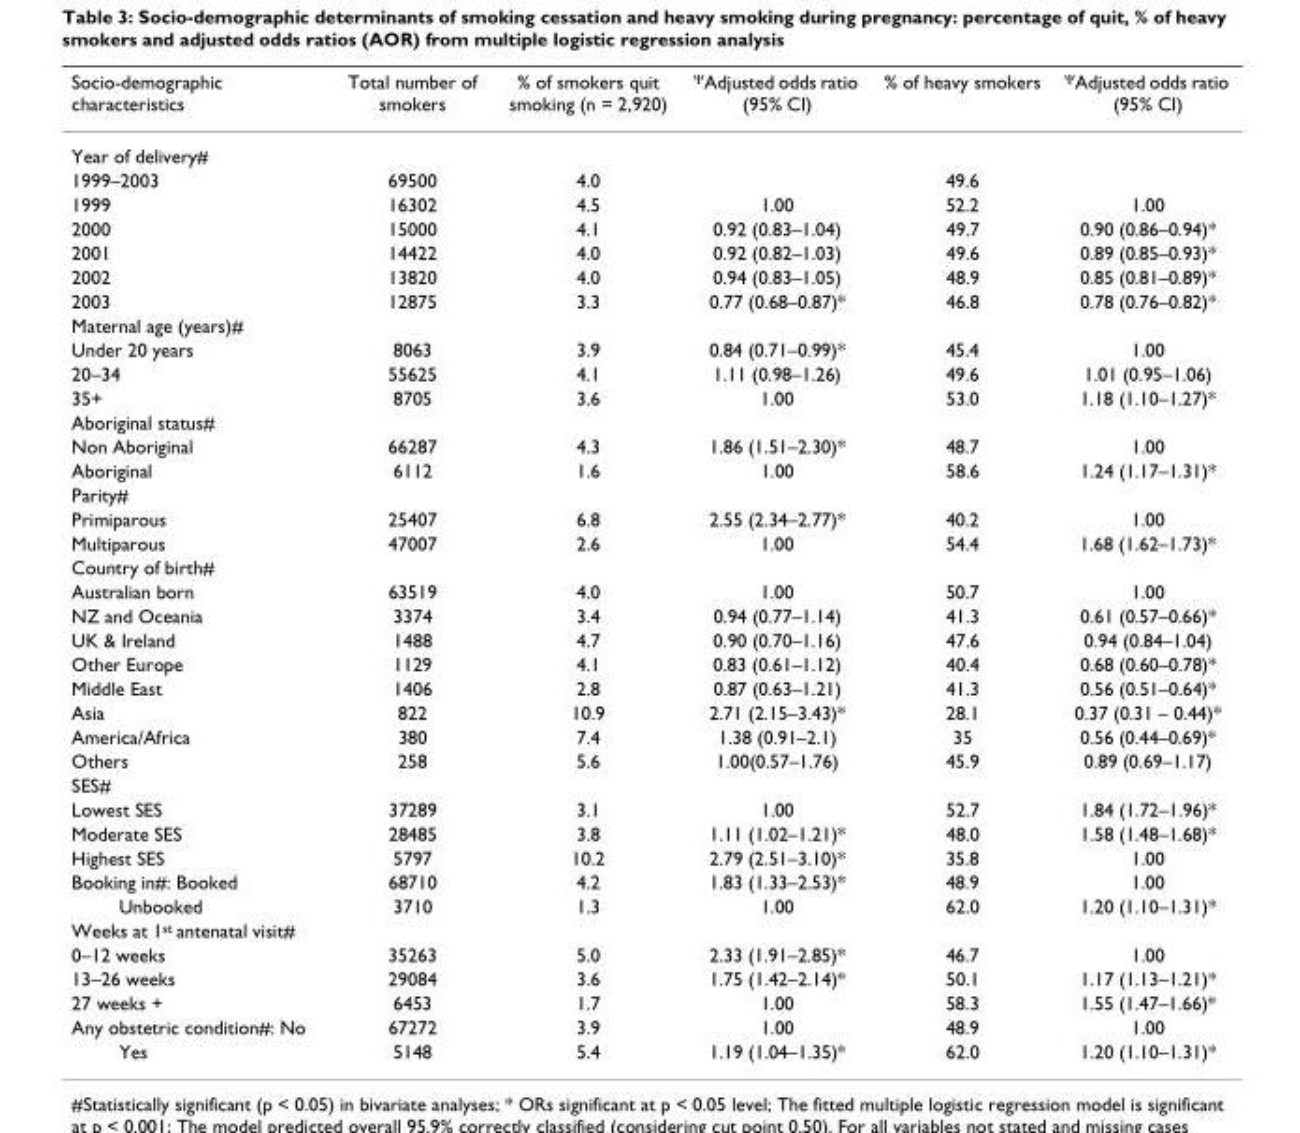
<table><thead><tr><td>Socio-demographic characteristics</td><td>Total number of smokers</td><td>% of smokers quit smoking (n = 2,920)</td><td><sup>Ψ</sup>Adjusted odds ratio (95% CI)</td><td>% of heavy smokers</td><td><sup>Ψ</sup>Adjusted odds ratio (95% CI)</td></tr></thead><tbody><tr><td colspan="6">Year of delivery#</td></tr><tr><td>1999–2003</td><td>69500</td><td>4.0</td><td></td><td>49.6</td><td></td></tr><tr><td>1999</td><td>16302</td><td>4.5</td><td>1.00</td><td>52.2</td><td>1.00</td></tr><tr><td>2000</td><td>15000</td><td>4.1</td><td>0.92 (0.83–1.04)</td><td>49.7</td><td>0.90 (0.86–0.94)*</td></tr><tr><td>2001</td><td>14422</td><td>4.0</td><td>0.92 (0.82–1.03)</td><td>49.6</td><td>0.89 (0.85–0.93)*</td></tr><tr><td>2002</td><td>13820</td><td>4.0</td><td>0.94 (0.83–1.05)</td><td>48.9</td><td>0.85 (0.81–0.89)*</td></tr><tr><td>2003</td><td>12875</td><td>3.3</td><td>0.77 (0.68–0.87)*</td><td>46.8</td><td>0.78 (0.76–0.82)*</td></tr><tr><td colspan="6">Maternal age (years)#</td></tr><tr><td>Under 20 years</td><td>8063</td><td>3.9</td><td>0.84 (0.71–0.99)*</td><td>45.4</td><td>1.00</td></tr><tr><td>20–34</td><td>55625</td><td>4.1</td><td>1.11 (0.98–1.26)</td><td>49.6</td><td>1.01 (0.95–1.06)</td></tr><tr><td>35+</td><td>8705</td><td>3.6</td><td>1.00</td><td>53.0</td><td>1.18 (1.10–1.27)*</td></tr><tr><td colspan="6">Aboriginal status#</td></tr><tr><td>Non Aboriginal</td><td>66287</td><td>4.3</td><td>1.86 (1.51–2.30)*</td><td>48.7</td><td>1.00</td></tr><tr><td>Aboriginal</td><td>6112</td><td>1.6</td><td>1.00</td><td>58.6</td><td>1.24 (1.17–1.31)*</td></tr><tr><td colspan="6">Parity#</td></tr><tr><td>Primiparous</td><td>25407</td><td>6.8</td><td>2.55 (2.34–2.77)*</td><td>40.2</td><td>1.00</td></tr><tr><td>Multiparous</td><td>47007</td><td>2.6</td><td>1.00</td><td>54.4</td><td>1.68 (1.62–1.73)*</td></tr><tr><td colspan="6">Country of birth#</td></tr><tr><td>Australian born</td><td>63519</td><td>4.0</td><td>1.00</td><td>50.7</td><td>1.00</td></tr><tr><td>NZ and Oceania</td><td>3374</td><td>3.4</td><td>0.94 (0.77–1.14)</td><td>41.3</td><td>0.61 (0.57–0.66)*</td></tr><tr><td>UK &amp; Ireland</td><td>1488</td><td>4.7</td><td>0.90 (0.70–1.16)</td><td>47.6</td><td>0.94 (0.84–1.04)</td></tr><tr><td>Other Europe</td><td>1129</td><td>4.1</td><td>0.83 (0.61–1.12)</td><td>40.4</td><td>0.68 (0.60–0.78)*</td></tr><tr><td>Middle East</td><td>1406</td><td>2.8</td><td>0.87 (0.63–1.21)</td><td>41.3</td><td>0.56 (0.51–0.64)*</td></tr><tr><td>Asia</td><td>822</td><td>10.9</td><td>2.71 (2.15–3.43)*</td><td>28.1</td><td>0.37 (0.31 – 0.44)*</td></tr><tr><td>America/Africa</td><td>380</td><td>7.4</td><td>1.38 (0.91–2.1)</td><td>35</td><td>0.56 (0.44–0.69)*</td></tr><tr><td>Others</td><td>258</td><td>5.6</td><td>1.00(0.57–1.76)</td><td>45.9</td><td>0.89 (0.69–1.17)</td></tr><tr><td colspan="6">SES#</td></tr><tr><td>Lowest SES</td><td>37289</td><td>3.1</td><td>1.00</td><td>52.7</td><td>1.84 (1.72–1.96)*</td></tr><tr><td>Moderate SES</td><td>28485</td><td>3.8</td><td>1.11 (1.02–1.21)*</td><td>48.0</td><td>1.58 (1.48–1.68)*</td></tr><tr><td>Highest SES</td><td>5797</td><td>10.2</td><td>2.79 (2.51–3.10)*</td><td>35.8</td><td>1.00</td></tr><tr><td>Booking in#: Booked</td><td>68710</td><td>4.2</td><td>1.83 (1.33–2.53)*</td><td>48.9</td><td>1.00</td></tr><tr><td>Unbooked</td><td>3710</td><td>1.3</td><td>1.00</td><td>62.0</td><td>1.20 (1.10–1.31)*</td></tr><tr><td colspan="6">Weeks at 1<sup>st</sup> antenatal visit#</td></tr><tr><td>0–12 weeks</td><td>35263</td><td>5.0</td><td>2.33 (1.91–2.85)*</td><td>46.7</td><td>1.00</td></tr><tr><td>13–26 weeks</td><td>29084</td><td>3.6</td><td>1.75 (1.42–2.14)*</td><td>50.1</td><td>1.17 (1.13–1.21)*</td></tr><tr><td>27 weeks +</td><td>6453</td><td>1.7</td><td>1.00</td><td>58.3</td><td>1.55 (1.47–1.66)*</td></tr><tr><td>Any obstetric condition#: No</td><td>67272</td><td>3.9</td><td>1.00</td><td>48.9</td><td>1.00</td></tr><tr><td>Yes</td><td>5148</td><td>5.4</td><td>1.19 (1.04–1.35)*</td><td>62.0</td><td>1.20 (1.10–1.31)*</td></tr></tbody></table>